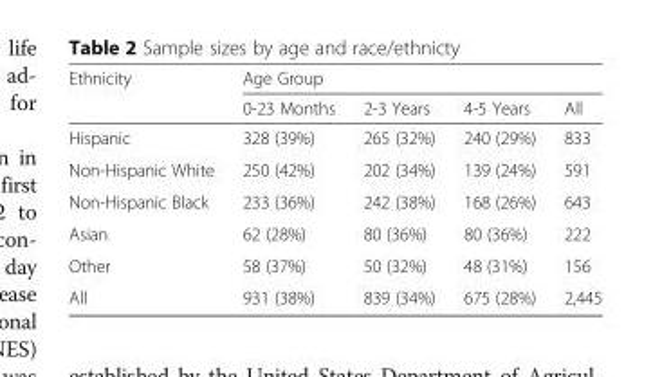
<table><thead><tr><td rowspan="2">Ethnicity</td><td colspan="4">Age Group</td></tr><tr><td>0-23 Months</td><td>2-3 Years</td><td>4-5 Years</td><td>All</td></tr></thead><tbody><tr><td>Hispanic</td><td>328 (39%)</td><td>265 (32%)</td><td>240 (29%)</td><td>833</td></tr><tr><td>Non-Hispanic White</td><td>250 (42%)</td><td>202 (34%)</td><td>139 (24%)</td><td>591</td></tr><tr><td>Non-Hispanic Black</td><td>233 (36%)</td><td>242 (38%)</td><td>168 (26%)</td><td>643</td></tr><tr><td>Asian</td><td>62 (28%)</td><td>80 (36%)</td><td>80 (36%)</td><td>222</td></tr><tr><td>Other</td><td>58 (37%)</td><td>50 (32%)</td><td>48 (31%)</td><td>156</td></tr><tr><td>All</td><td>931 (38%)</td><td>839 (34%)</td><td>675 (28%)</td><td>2,445</td></tr></tbody></table>